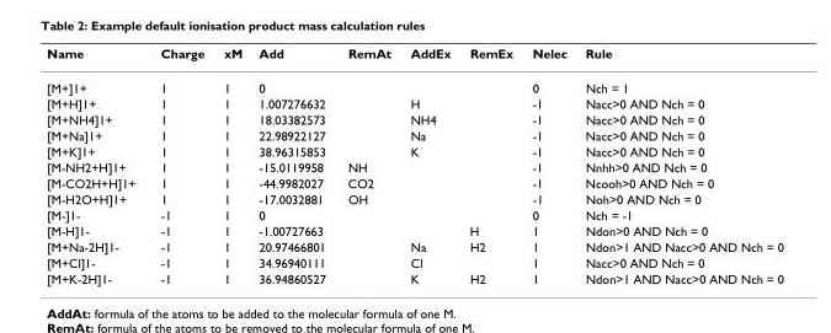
<table><thead><tr><td>Name</td><td>Charge</td><td>xM</td><td>Add</td><td>RemAt</td><td>AddEx</td><td>RemEx</td><td>Nelec</td><td>Rule</td></tr></thead><tbody><tr><td>[M+]1+</td><td>1</td><td>1</td><td>0</td><td></td><td></td><td></td><td>0</td><td>Nch = 1</td></tr><tr><td>[M+H]1+</td><td>1</td><td>1</td><td>1.007276632</td><td></td><td>H</td><td></td><td>-1</td><td>Nacc&gt;0 AND Nch = 0</td></tr><tr><td>[M+NH4]1+</td><td>1</td><td>1</td><td>18.03382573</td><td></td><td>NH4</td><td></td><td>-1</td><td>Nacc&gt;0 AND Nch = 0</td></tr><tr><td>[M+Na]1+</td><td>1</td><td>1</td><td>22.98922127</td><td></td><td>Na</td><td></td><td>-1</td><td>Nacc&gt;0 AND Nch = 0</td></tr><tr><td>[M+K]1+</td><td>1</td><td>1</td><td>38.96315853</td><td></td><td>K</td><td></td><td>-1</td><td>Nacc&gt;0 AND Nch = 0</td></tr><tr><td>[M-NH2+H]1+</td><td>1</td><td>1</td><td>-15.0119958</td><td>NH</td><td></td><td></td><td>-1</td><td>Nnhh&gt;0 AND Nch = 0</td></tr><tr><td>[M-CO2H+H]1+</td><td>1</td><td>1</td><td>-44.9982027</td><td>CO2</td><td></td><td></td><td>-1</td><td>Ncooh&gt;0 AND Nch = 0</td></tr><tr><td>[M-H2O+H]1+</td><td>1</td><td>1</td><td>-17.0032881</td><td>OH</td><td></td><td></td><td>-1</td><td>Noh&gt;0 AND Nch = 0</td></tr><tr><td>[M-]1-</td><td>-1</td><td>1</td><td>0</td><td></td><td></td><td></td><td>0</td><td>Nch = -1</td></tr><tr><td>[M-H]1-</td><td>-1</td><td>1</td><td>-1.00727663</td><td></td><td></td><td>H</td><td>1</td><td>Ndon&gt;0 AND Nch = 0</td></tr><tr><td>[M+Na-2H]1-</td><td>-1</td><td>1</td><td>20.97466801</td><td></td><td>Na</td><td>H2</td><td>1</td><td>Ndon&gt;1 AND Nacc&gt;0 AND Nch = 0</td></tr><tr><td>[M+Cl]1-</td><td>-1</td><td>1</td><td>34.96940111</td><td></td><td>Cl</td><td></td><td>1</td><td>Nacc&gt;0 AND Nch = 0</td></tr><tr><td>[M+K-2H]1-</td><td>-1</td><td>1</td><td>36.94860527</td><td></td><td>K</td><td>H2</td><td>1</td><td>Ndon&gt;1 AND Nacc&gt;0 AND Nch = 0</td></tr></tbody></table>